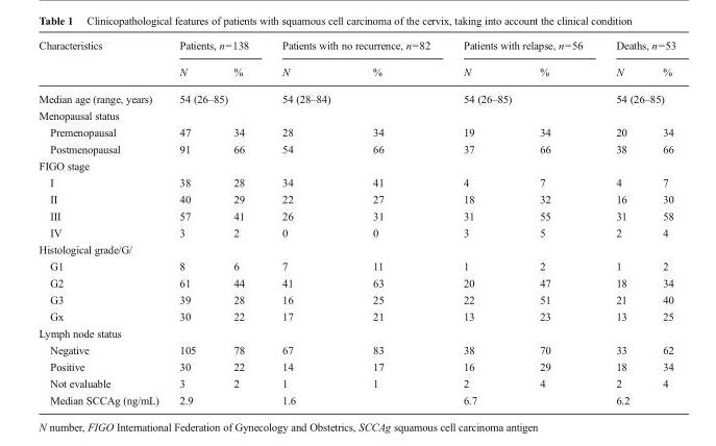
<table><thead><tr><td rowspan="2">Characteristics</td><td colspan="2">Patients, n=138</td><td colspan="2">Patients with no recurrence, n=82</td><td colspan="2">Patients with relapse, n=56</td><td colspan="2">Deaths, n=53</td></tr><tr><td>N</td><td>%</td><td>N</td><td>%</td><td>N</td><td>%</td><td>N</td><td>%</td></tr></thead><tbody><tr><td>Median age (range, years)</td><td colspan="2">54 (26–85)</td><td colspan="2">54 (28–84)</td><td colspan="2">54 (26–85)</td><td colspan="2">54 (26–85)</td></tr><tr><td colspan="9">Menopausal status</td></tr><tr><td>Premenopausal</td><td>47</td><td>34</td><td>28</td><td>34</td><td>19</td><td>34</td><td>20</td><td>34</td></tr><tr><td>Postmenopausal</td><td>91</td><td>66</td><td>54</td><td>66</td><td>37</td><td>66</td><td>38</td><td>66</td></tr><tr><td colspan="9">FIGO stage</td></tr><tr><td>I</td><td>38</td><td>28</td><td>34</td><td>41</td><td>4</td><td>7</td><td>4</td><td>7</td></tr><tr><td>II</td><td>40</td><td>29</td><td>22</td><td>27</td><td>18</td><td>32</td><td>16</td><td>30</td></tr><tr><td>III</td><td>57</td><td>41</td><td>26</td><td>31</td><td>31</td><td>55</td><td>31</td><td>58</td></tr><tr><td>IV</td><td>3</td><td>2</td><td>0</td><td>0</td><td>3</td><td>5</td><td>2</td><td>4</td></tr><tr><td colspan="9">Histological grade/G/</td></tr><tr><td>G1</td><td>8</td><td>6</td><td>7</td><td>11</td><td>1</td><td>2</td><td>1</td><td>2</td></tr><tr><td>G2</td><td>61</td><td>44</td><td>41</td><td>63</td><td>20</td><td>47</td><td>18</td><td>34</td></tr><tr><td>G3</td><td>39</td><td>28</td><td>16</td><td>25</td><td>22</td><td>51</td><td>21</td><td>40</td></tr><tr><td>Gx</td><td>30</td><td>22</td><td>17</td><td>21</td><td>13</td><td>23</td><td>13</td><td>25</td></tr><tr><td colspan="9">Lymph node status</td></tr><tr><td>Negative</td><td>105</td><td>78</td><td>67</td><td>83</td><td>38</td><td>70</td><td>33</td><td>62</td></tr><tr><td>Positive</td><td>30</td><td>22</td><td>14</td><td>17</td><td>16</td><td>29</td><td>18</td><td>34</td></tr><tr><td>Not evaluable</td><td>3</td><td>2</td><td>1</td><td>1</td><td>2</td><td>4</td><td>2</td><td>4</td></tr><tr><td>Median SCCAg (ng/mL)</td><td colspan="2">2.9</td><td colspan="2">1.6</td><td colspan="2">6.7</td><td colspan="2">6.2</td></tr></tbody></table>